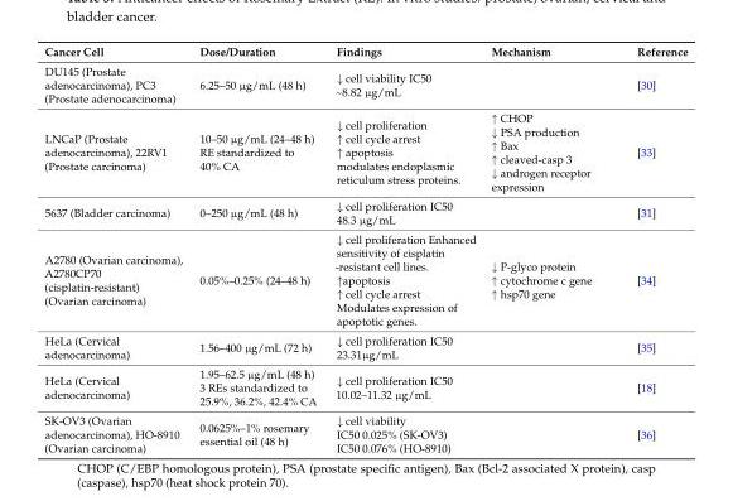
<table><thead><tr><td>Cancer Cell</td><td>Dose/Duration</td><td>Findings</td><td>Mechanism</td><td>Reference</td></tr></thead><tbody><tr><td>DU145 (Prostate adenocarcinoma), PC3 (Prostate adenocarcinoma)</td><td>6.25–50 µg/mL (48 h)</td><td>↓ cell viability IC50 ~8.82 µg/mL</td><td></td><td>[30]</td></tr><tr><td>LNCaP (Prostate adenocarcinoma), 22RV1 (Prostate carcinoma)</td><td>10–50 µg/mL (24–48 h) RE standardized to 40% CA</td><td>↓ cell proliferation ↑ cell cycle arrest ↑ apoptosis modulates endoplasmic reticulum stress proteins.</td><td>↑ CHOP ↓ PSA production ↑ Bax ↑ cleaved-casp 3 ↓ androgen receptor expression</td><td>[33]</td></tr><tr><td>5637 (Bladder carcinoma)</td><td>0–250 µg/mL (48 h)</td><td>↓ cell proliferation IC50 48.3 µg/mL</td><td></td><td>[31]</td></tr><tr><td>A2780 (Ovarian carcinoma), A2780CP70 (cisplatin-resistant) (Ovarian carcinoma)</td><td>0.05%–0.25% (24–48 h)</td><td>↓ cell proliferation Enhanced sensitivity of cisplatin -resistant cell lines. ↑apoptosis ↑ cell cycle arrest Modulates expression of apoptotic genes.</td><td>↓ P-glyco protein ↑ cytochrome c gene ↑ hsp70 gene</td><td>[34]</td></tr><tr><td>HeLa (Cervical adenocarcinoma)</td><td>1.56–400 µg/mL (72 h)</td><td>↓ cell proliferation IC50 23.31µg/mL</td><td></td><td>[35]</td></tr><tr><td>HeLa (Cervical adenocarcinoma)</td><td>1.95–62.5 µg/mL (48 h) 3 REs standardized to 25.9%, 36.2%, 42.4% CA</td><td>↓ cell proliferation IC50 10.02–11.32 µg/mL</td><td></td><td>[18]</td></tr><tr><td>SK-OV3 (Ovarian adenocarcinoma), HO-8910 (Ovarian carcinoma)</td><td>0.0625%–1% rosemary essential oil (48 h)</td><td>↓ cell viability IC50 0.025% (SK-OV3) IC50 0.076% (HO-8910)</td><td></td><td>[36]</td></tr></tbody></table>